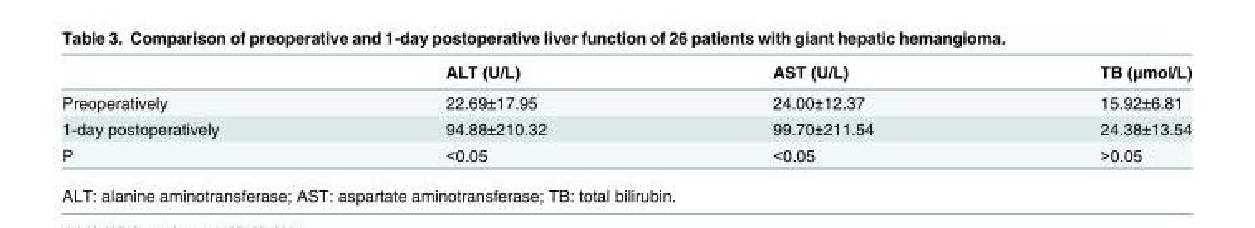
<table><thead><tr><td></td><td>ALT (U/L)</td><td>AST (U/L)</td><td>TB (μmol/L)</td></tr></thead><tbody><tr><td>Preoperatively</td><td>22.69±17.95</td><td>24.00±12.37</td><td>15.92±6.81</td></tr><tr><td>1-day postoperatively</td><td>94.88±210.32</td><td>99.70±211.54</td><td>24.38±13.54</td></tr><tr><td>P</td><td>&lt;0.05</td><td>&lt;0.05</td><td>&gt;0.05</td></tr></tbody></table>